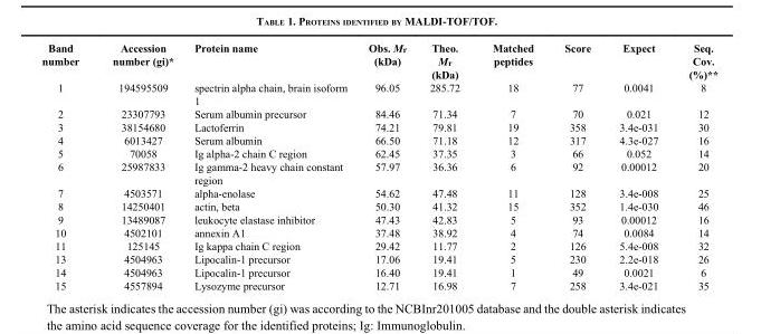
<table><thead><tr><td>Band number</td><td>Accession number (gi)*</td><td>Protein name</td><td>Obs. M<sub>r</sub> (kDa)</td><td>Theo. M<sub>r</sub> (kDa)</td><td>Matched peptides</td><td>Score</td><td>Expect</td><td>Seq. Cov. (%)**</td></tr></thead><tbody><tr><td>1</td><td>194595509</td><td>spectrin alpha chain, brain isoform 1</td><td>96.05</td><td>285.72</td><td>18</td><td>77</td><td>0.0041</td><td>8</td></tr><tr><td>2</td><td>23307793</td><td>Serum albumin precursor</td><td>84.46</td><td>71.34</td><td>7</td><td>70</td><td>0.021</td><td>12</td></tr><tr><td>3</td><td>38154680</td><td>Lactoferrin</td><td>74.21</td><td>79.81</td><td>19</td><td>358</td><td>3.4e-031</td><td>30</td></tr><tr><td>4</td><td>6013427</td><td>Serum albumin</td><td>66.50</td><td>71.18</td><td>12</td><td>317</td><td>4.3e-027</td><td>16</td></tr><tr><td>5</td><td>70058</td><td>Ig alpha-2 chain C region</td><td>62.45</td><td>37.35</td><td>3</td><td>66</td><td>0.052</td><td>14</td></tr><tr><td>6</td><td>25987833</td><td>Ig gamma-2 heavy chain constant region</td><td>57.97</td><td>36.36</td><td>6</td><td>92</td><td>0.00012</td><td>20</td></tr><tr><td>7</td><td>4503571</td><td>alpha-enolase</td><td>54.62</td><td>47.48</td><td>11</td><td>128</td><td>3.4e-008</td><td>25</td></tr><tr><td>8</td><td>14250401</td><td>actin, beta</td><td>50.30</td><td>41.32</td><td>15</td><td>352</td><td>1.4e-030</td><td>46</td></tr><tr><td>9</td><td>13489087</td><td>leukocyte elastase inhibitor</td><td>47.43</td><td>42.83</td><td>5</td><td>93</td><td>0.00012</td><td>16</td></tr><tr><td>10</td><td>4502101</td><td>annexin A1</td><td>37.48</td><td>38.92</td><td>4</td><td>74</td><td>0.0084</td><td>14</td></tr><tr><td>11</td><td>125145</td><td>Ig kappa chain C region</td><td>29.42</td><td>11.77</td><td>2</td><td>126</td><td>5.4e-008</td><td>32</td></tr><tr><td>13</td><td>4504963</td><td>Lipocalin-1 precursor</td><td>17.06</td><td>19.41</td><td>5</td><td>230</td><td>2.2e-018</td><td>26</td></tr><tr><td>14</td><td>4504963</td><td>Lipocalin-1 precursor</td><td>16.40</td><td>19.41</td><td>1</td><td>49</td><td>0.0021</td><td>6</td></tr><tr><td>15</td><td>4557894</td><td>Lysozyme precursor</td><td>12.71</td><td>16.98</td><td>7</td><td>258</td><td>3.4e-021</td><td>35</td></tr></tbody></table>